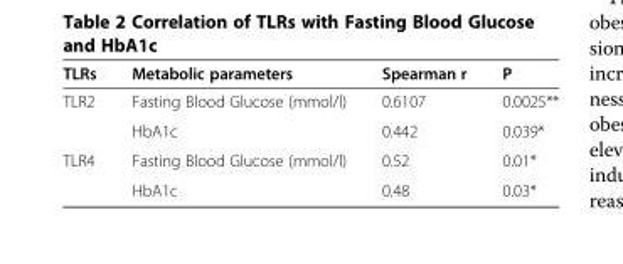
<table><thead><tr><td>TLRs</td><td>Metabolic parameters</td><td>Spearman r</td><td>P</td></tr></thead><tbody><tr><td rowspan="2">TLR2</td><td>Fasting Blood Glucose (mmol/l)</td><td>0.6107</td><td>0.0025**</td></tr><tr><td>HbA1c</td><td>0.442</td><td>0.039*</td></tr><tr><td rowspan="2">TLR4</td><td>Fasting Blood Glucose (mmol/l)</td><td>0.52</td><td>0.01*</td></tr><tr><td>HbA1c</td><td>0.48</td><td>0.03*</td></tr></tbody></table>